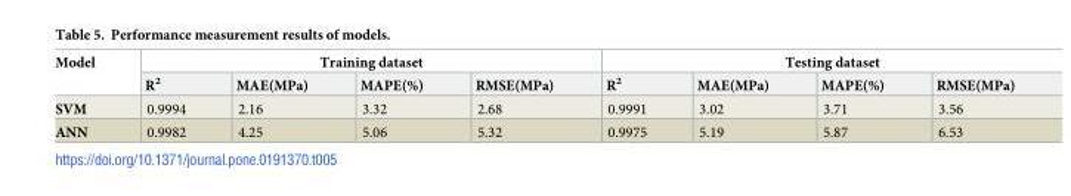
<table><thead><tr><td rowspan="2">Model</td><td colspan="4">Training dataset</td><td colspan="4">Testing dataset</td></tr><tr><td>R<sup>2</sup></td><td>MAE(MPa)</td><td>MAPE(%)</td><td>RMSE(MPa)</td><td>R<sup>2</sup></td><td>MAE(MPa)</td><td>MAPE(%)</td><td>RMSE(MPa)</td></tr></thead><tbody><tr><td>SVM</td><td>0.9994</td><td>2.16</td><td>3.32</td><td>2.68</td><td>0.9991</td><td>3.02</td><td>3.71</td><td>3.56</td></tr><tr><td>ANN</td><td>0.9982</td><td>4.25</td><td>5.06</td><td>5.32</td><td>0.9975</td><td>5.19</td><td>5.87</td><td>6.53</td></tr></tbody></table>